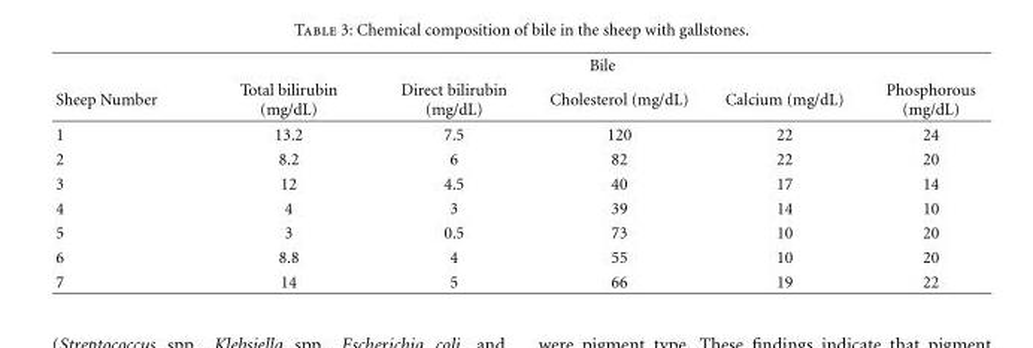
<table><thead><tr><td rowspan="2">Sheep Number</td><td colspan="5">Bile</td></tr><tr><td>Total bilirubin (mg/dL)</td><td>Direct bilirubin (mg/dL)</td><td>Cholesterol (mg/dL)</td><td>Calcium (mg/dL)</td><td>Phosphorous (mg/dL)</td></tr></thead><tbody><tr><td>1</td><td>13.2</td><td>7.5</td><td>120</td><td>22</td><td>24</td></tr><tr><td>2</td><td>8.2</td><td>6</td><td>82</td><td>22</td><td>20</td></tr><tr><td>3</td><td>12</td><td>4.5</td><td>40</td><td>17</td><td>14</td></tr><tr><td>4</td><td>4</td><td>3</td><td>39</td><td>14</td><td>10</td></tr><tr><td>5</td><td>3</td><td>0.5</td><td>73</td><td>10</td><td>20</td></tr><tr><td>6</td><td>8.8</td><td>4</td><td>55</td><td>10</td><td>20</td></tr><tr><td>7</td><td>14</td><td>5</td><td>66</td><td>19</td><td>22</td></tr></tbody></table>